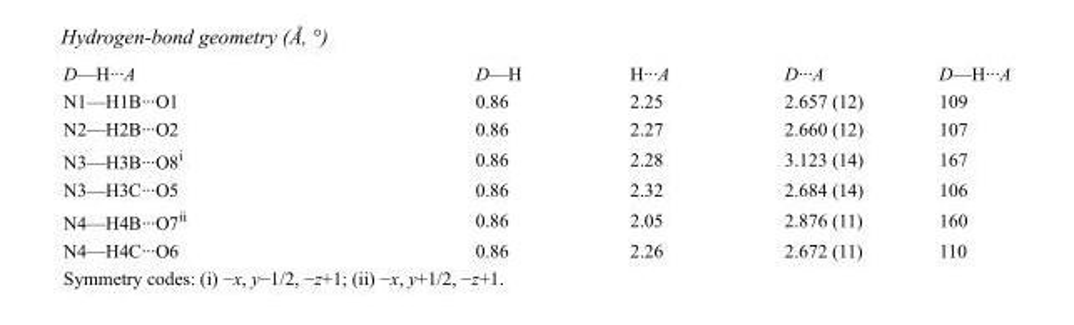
<table><tbody><tr><td>D—H···A</td><td>D—H</td><td>H···A</td><td>D···A</td><td>D—H···A</td></tr><tr><td>N1—H1B···O1</td><td>0.86</td><td>2.25</td><td>2.657 (12)</td><td>109</td></tr><tr><td>N2—H2B···O2</td><td>0.86</td><td>2.27</td><td>2.660 (12)</td><td>107</td></tr><tr><td>N3—H3B···O8<sup>i</sup></td><td>0.86</td><td>2.28</td><td>3.123 (14)</td><td>167</td></tr><tr><td>N3—H3C···O5</td><td>0.86</td><td>2.32</td><td>2.684 (14)</td><td>106</td></tr><tr><td>N4—H4B···O7<sup>ii</sup></td><td>0.86</td><td>2.05</td><td>2.876 (11)</td><td>160</td></tr><tr><td>N4—H4C···O6</td><td>0.86</td><td>2.26</td><td>2.672 (11)</td><td>110</td></tr></tbody></table>